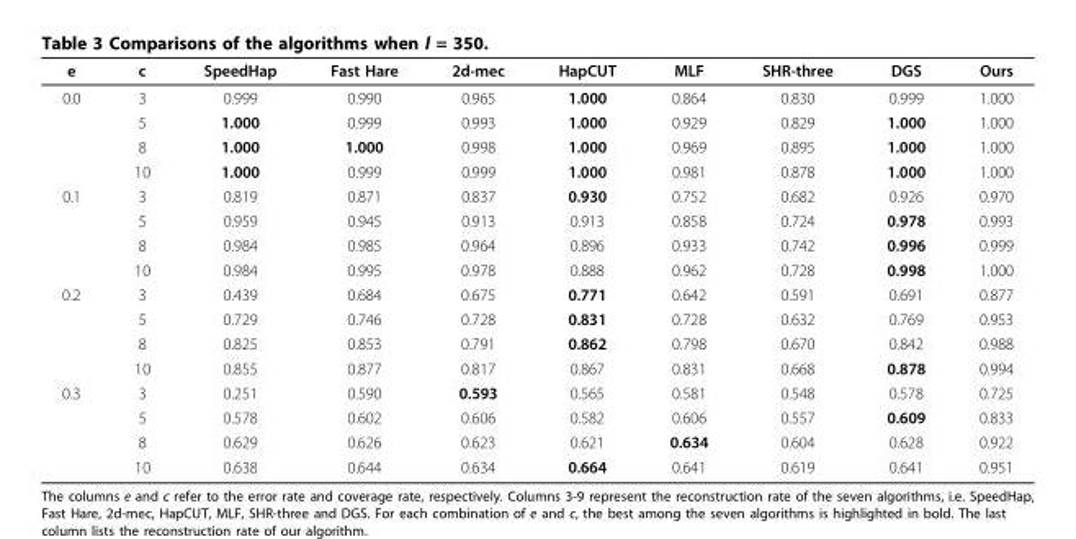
<table><thead><tr><td>e</td><td>c</td><td>SpeedHap</td><td>Fast Hare</td><td>2d-mec</td><td>HapCUT</td><td>MLF</td><td>SHR-three</td><td>DGS</td><td>Ours</td></tr></thead><tbody><tr><td rowspan="4">0.0</td><td>3</td><td>0.999</td><td>0.990</td><td>0.965</td><td>1.000</td><td>0.864</td><td>0.830</td><td>0.999</td><td>1.000</td></tr><tr><td>5</td><td>1.000</td><td>0.999</td><td>0.993</td><td>1.000</td><td>0.929</td><td>0.829</td><td>1.000</td><td>1.000</td></tr><tr><td>8</td><td>1.000</td><td>1.000</td><td>0.998</td><td>1.000</td><td>0.969</td><td>0.895</td><td>1.000</td><td>1.000</td></tr><tr><td>10</td><td>1.000</td><td>0.999</td><td>0.999</td><td>1.000</td><td>0.981</td><td>0.878</td><td>1.000</td><td>1.000</td></tr><tr><td rowspan="4">0.1</td><td>3</td><td>0.819</td><td>0.871</td><td>0.837</td><td>0.930</td><td>0.752</td><td>0.682</td><td>0.926</td><td>0.970</td></tr><tr><td>5</td><td>0.959</td><td>0.945</td><td>0.913</td><td>0.913</td><td>0.858</td><td>0.724</td><td>0.978</td><td>0.993</td></tr><tr><td>8</td><td>0.984</td><td>0.985</td><td>0.964</td><td>0.896</td><td>0.933</td><td>0.742</td><td>0.996</td><td>0.999</td></tr><tr><td>10</td><td>0.984</td><td>0.995</td><td>0.978</td><td>0.888</td><td>0.962</td><td>0.728</td><td>0.998</td><td>1.000</td></tr><tr><td rowspan="4">0.2</td><td>3</td><td>0.439</td><td>0.684</td><td>0.675</td><td>0.771</td><td>0.642</td><td>0.591</td><td>0.691</td><td>0.877</td></tr><tr><td>5</td><td>0.729</td><td>0.746</td><td>0.728</td><td>0.831</td><td>0.728</td><td>0.632</td><td>0.769</td><td>0.953</td></tr><tr><td>8</td><td>0.825</td><td>0.853</td><td>0.791</td><td>0.862</td><td>0.798</td><td>0.670</td><td>0.842</td><td>0.988</td></tr><tr><td>10</td><td>0.855</td><td>0.877</td><td>0.817</td><td>0.867</td><td>0.831</td><td>0.668</td><td>0.878</td><td>0.994</td></tr><tr><td rowspan="4">0.3</td><td>3</td><td>0.251</td><td>0.590</td><td>0.593</td><td>0.565</td><td>0.581</td><td>0.548</td><td>0.578</td><td>0.725</td></tr><tr><td>5</td><td>0.578</td><td>0.602</td><td>0.606</td><td>0.582</td><td>0.606</td><td>0.557</td><td>0.609</td><td>0.833</td></tr><tr><td>8</td><td>0.629</td><td>0.626</td><td>0.623</td><td>0.621</td><td>0.634</td><td>0.604</td><td>0.628</td><td>0.922</td></tr><tr><td>10</td><td>0.638</td><td>0.644</td><td>0.634</td><td>0.664</td><td>0.641</td><td>0.619</td><td>0.641</td><td>0.951</td></tr></tbody></table>